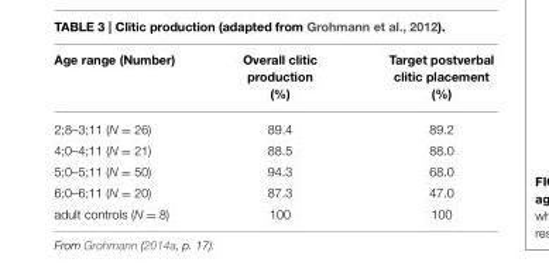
<table><thead><tr><td>Age range (Number)</td><td>Overall clitic production (%)</td><td>Target postverbal clitic placement (%)</td></tr></thead><tbody><tr><td>2;8–3;11 (N = 26)</td><td>89.4</td><td>89.2</td></tr><tr><td>4;0–4;11 (N = 21)</td><td>88.5</td><td>88.0</td></tr><tr><td>5;0–5;11 (N = 50)</td><td>94.3</td><td>68.0</td></tr><tr><td>6;0–6;11 (N = 20)</td><td>87.3</td><td>47.0</td></tr><tr><td>adult controls (N = 8)</td><td>100</td><td>100</td></tr></tbody></table>